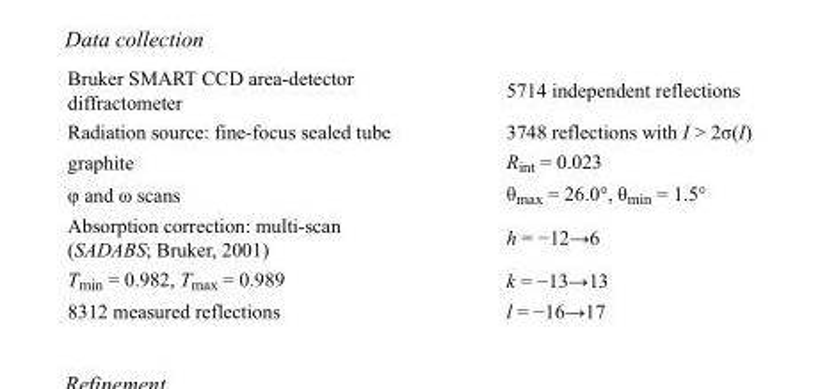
<table><tbody><tr><td>Bruker SMART CCD area-detector diffractometer</td><td>5714 independent reflections</td></tr><tr><td>Radiation source: fine-focus sealed tube</td><td>3748 reflections with I &gt; 2σ(I)</td></tr><tr><td>graphite</td><td>R<sub>int</sub> = 0.023</td></tr><tr><td>φ and ω scans</td><td>θ<sub>max</sub> = 26.0°, θ<sub>min</sub> = 1.5°</td></tr><tr><td>Absorption correction: multi-scan (SADABS; Bruker, 2001)</td><td>h = −12→6</td></tr><tr><td>T<sub>min</sub> = 0.982, T<sub>max</sub> = 0.989</td><td>k = −13→13</td></tr><tr><td>8312 measured reflections</td><td>l = −16→17</td></tr></tbody></table>